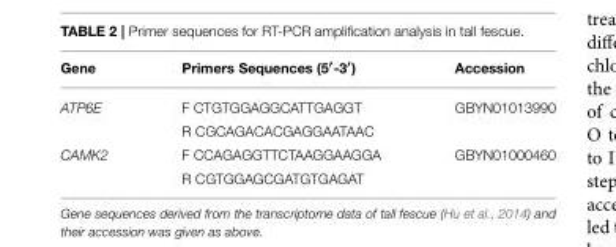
<table><thead><tr><td>Gene</td><td>Primers Sequences (5′-3′)</td><td>Accession</td></tr></thead><tbody><tr><td rowspan="2">ATP6E</td><td>F CTGTGGAGGCATTGAGGT</td><td>GBYN01013990</td></tr><tr><td>R CGCAGACACGAGGAATAAC</td><td></td></tr><tr><td rowspan="2">CAMK2</td><td>F CCAGAGGTTCTAAGGAAGGA</td><td>GBYN01000460</td></tr><tr><td>R CGTGGAGCGATGTGAGAT</td><td></td></tr></tbody></table>